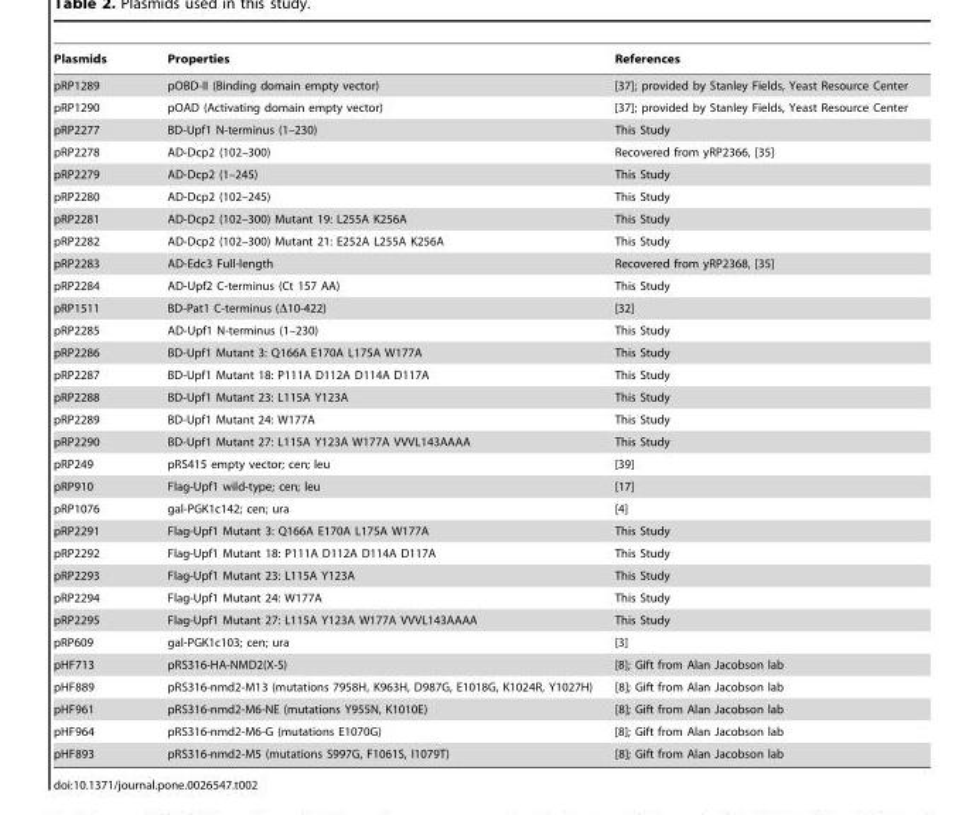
<table><thead><tr><td>Plasmids</td><td>Properties</td><td>References</td></tr></thead><tbody><tr><td>pRP1289</td><td>pOBD-II (Binding domain empty vector)</td><td>[37]; provided by Stanley Fields, Yeast Resource Center</td></tr><tr><td>pRP1290</td><td>pOAD (Activating domain empty vector)</td><td>[37]; provided by Stanley Fields, Yeast Resource Center</td></tr><tr><td>pRP2277</td><td>BD-Upf1 N-terminus (1–230)</td><td>This Study</td></tr><tr><td>pRP2278</td><td>AD-Dcp2 (102–300)</td><td>Recovered from yRP2366, [35]</td></tr><tr><td>pRP2279</td><td>AD-Dcp2 (1–245)</td><td>This Study</td></tr><tr><td>pRP2280</td><td>AD-Dcp2 (102–245)</td><td>This Study</td></tr><tr><td>pRP2281</td><td>AD-Dcp2 (102–300) Mutant 19: L255A K256A</td><td>This Study</td></tr><tr><td>pRP2282</td><td>AD-Dcp2 (102–300) Mutant 21: E252A L255A K256A</td><td>This Study</td></tr><tr><td>pRP2283</td><td>AD-Edc3 Full-length</td><td>Recovered from yRP2368, [35]</td></tr><tr><td>pRP2284</td><td>AD-Upf2 C-terminus (Ct 157 AA)</td><td>This Study</td></tr><tr><td>pRP1511</td><td>BD-Pat1 C-terminus (Δ10-422)</td><td>[32]</td></tr><tr><td>pRP2285</td><td>AD-Upf1 N-terminus (1–230)</td><td>This Study</td></tr><tr><td>pRP2286</td><td>BD-Upf1 Mutant 3: Q166A E170A L175A W177A</td><td>This Study</td></tr><tr><td>pRP2287</td><td>BD-Upf1 Mutant 18: P111A D112A D114A D117A</td><td>This Study</td></tr><tr><td>pRP2288</td><td>BD-Upf1 Mutant 23: L115A Y123A</td><td>This Study</td></tr><tr><td>pRP2289</td><td>BD-Upf1 Mutant 24: W177A</td><td>This Study</td></tr><tr><td>pRP2290</td><td>BD-Upf1 Mutant 27: L115A Y123A W177A VVVL143AAAA</td><td>This Study</td></tr><tr><td>pRP249</td><td>pRS415 empty vector; cen; leu</td><td>[39]</td></tr><tr><td>pRP910</td><td>Flag-Upf1 wild-type; cen; leu</td><td>[17]</td></tr><tr><td>pRP1076</td><td>gal-PGK1c142; cen; ura</td><td>[4]</td></tr><tr><td>pRP2291</td><td>Flag-Upf1 Mutant 3: Q166A E170A L175A W177A</td><td>This Study</td></tr><tr><td>pRP2292</td><td>Flag-Upf1 Mutant 18: P111A D112A D114A D117A</td><td>This Study</td></tr><tr><td>pRP2293</td><td>Flag-Upf1 Mutant 23: L115A Y123A</td><td>This Study</td></tr><tr><td>pRP2294</td><td>Flag-Upf1 Mutant 24: W177A</td><td>This Study</td></tr><tr><td>pRP2295</td><td>Flag-Upf1 Mutant 27: L115A Y123A W177A VVVL143AAAA</td><td>This Study</td></tr><tr><td>pRP609</td><td>gal-PGK1c103; cen; ura</td><td>[3]</td></tr><tr><td>pHF713</td><td>pRS316-HA-NMD2(X-S)</td><td>[8]; Gift from Alan Jacobson lab</td></tr><tr><td>pHF889</td><td>pRS316-nmd2-M13 (mutations 7958H, K963H, D987G, E1018G, K1024R, Y1027H)</td><td>[8]; Gift from Alan Jacobson lab</td></tr><tr><td>pHF961</td><td>pRS316-nmd2-M6-NE (mutations Y955N, K1010E)</td><td>[8]; Gift from Alan Jacobson lab</td></tr><tr><td>pHF964</td><td>pRS316-nmd2-M6-G (mutations E1070G)</td><td>[8]; Gift from Alan Jacobson lab</td></tr><tr><td>pHF893</td><td>pRS316-nmd2-M5 (mutations S997G, F1061S, I1079T)</td><td>[8]; Gift from Alan Jacobson lab</td></tr></tbody></table>